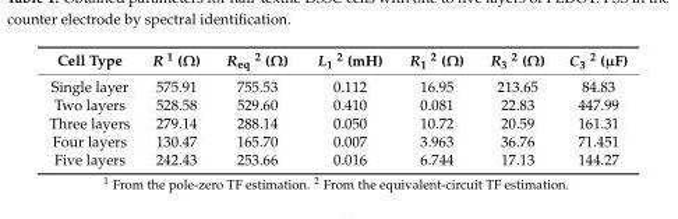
<table><thead><tr><td>Cell Type</td><td>R <sup>1</sup> (Ω)</td><td>R<sub>eq</sub> <sup>2</sup> (Ω)</td><td>L<sub>1</sub> <sup>2</sup> (mH)</td><td>R<sub>1</sub> <sup>2</sup> (Ω)</td><td>R<sub>3</sub> <sup>2</sup> (Ω)</td><td>C<sub>3</sub> <sup>2</sup> (µF)</td></tr></thead><tbody><tr><td>Single layer</td><td>575.91</td><td>755.53</td><td>0.112</td><td>16.95</td><td>213.65</td><td>84.83</td></tr><tr><td>Two layers</td><td>528.58</td><td>529.60</td><td>0.410</td><td>0.081</td><td>22.83</td><td>447.99</td></tr><tr><td>Three layers</td><td>279.14</td><td>288.14</td><td>0.050</td><td>10.72</td><td>20.59</td><td>161.31</td></tr><tr><td>Four layers</td><td>130.47</td><td>165.70</td><td>0.007</td><td>3.963</td><td>36.76</td><td>71.451</td></tr><tr><td>Five layers</td><td>242.43</td><td>253.66</td><td>0.016</td><td>6.744</td><td>17.13</td><td>144.27</td></tr></tbody></table>